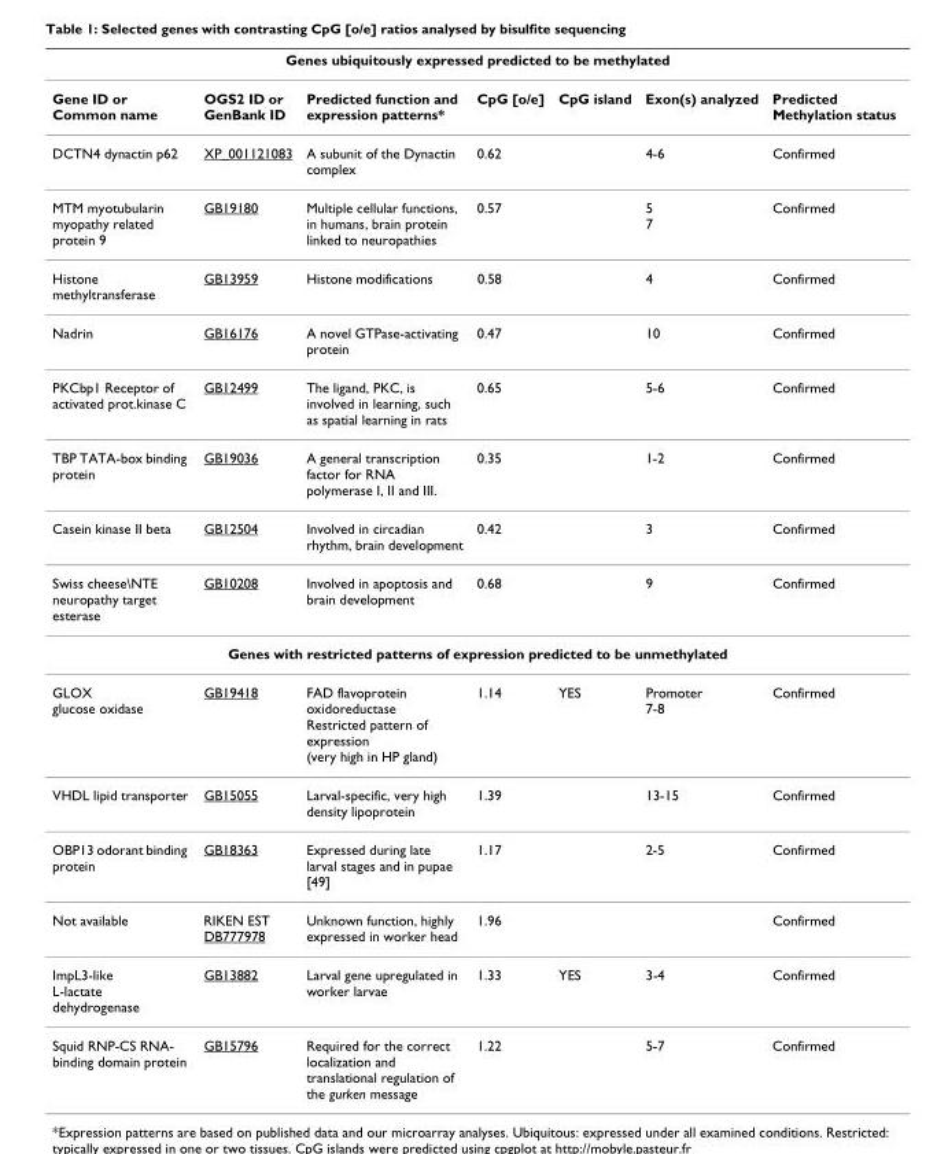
<table><thead><tr><td colspan="7">Genes ubiquitously expressed predicted to be methylated</td></tr><tr><td>Gene ID or Common name</td><td>OGS2 ID or GenBank ID</td><td>Predicted function and expression patterns*</td><td>CpG [o/e]</td><td>CpG island</td><td>Exon(s) analyzed</td><td>Predicted Methylation status</td></tr></thead><tbody><tr><td>DCTN4 dynactin p62</td><td>XP_001121083</td><td>A subunit of the Dynactin complex</td><td>0.62</td><td></td><td>4-6</td><td>Confirmed</td></tr><tr><td>MTM myotubularin myopathy related protein 9</td><td>GB19180</td><td>Multiple cellular functions, in humans, brain protein linked to neuropathies</td><td>0.57</td><td></td><td>5 7</td><td>Confirmed</td></tr><tr><td>Histone methyltransferase</td><td>GB13959</td><td>Histone modifications</td><td>0.58</td><td></td><td>4</td><td>Confirmed</td></tr><tr><td>Nadrin</td><td>GB16176</td><td>A novel GTPase-activating protein</td><td>0.47</td><td></td><td>10</td><td>Confirmed</td></tr><tr><td>PKCbp1 Receptor of activated prot.kinase C</td><td>GB12499</td><td>The ligand, PKC, is involved in learning, such as spatial learning in rats</td><td>0.65</td><td></td><td>5-6</td><td>Confirmed</td></tr><tr><td>TBP TATA-box binding protein</td><td>GB19036</td><td>A general transcription factor for RNA polymerase I, II and III.</td><td>0.35</td><td></td><td>1-2</td><td>Confirmed</td></tr><tr><td>Casein kinase II beta</td><td>GB12504</td><td>Involved in circadian rhythm, brain development</td><td>0.42</td><td></td><td>3</td><td>Confirmed</td></tr><tr><td>Swiss cheese\NTE neuropathy target esterase</td><td>GB10208</td><td>Involved in apoptosis and brain development</td><td>0.68</td><td></td><td>9</td><td>Confirmed</td></tr><tr><td colspan="7">Genes with restricted patterns of expression predicted to be unmethylated</td></tr><tr><td>GLOX glucose oxidase</td><td>GB19418</td><td>FAD flavoprotein oxidoreductase Restricted pattern of expression (very high in HP gland)</td><td>1.14</td><td>YES</td><td>Promoter 7-8</td><td>Confirmed</td></tr><tr><td>VHDL lipid transporter</td><td>GB15055</td><td>Larval-specific, very high density lipoprotein</td><td>1.39</td><td></td><td>13-15</td><td>Confirmed</td></tr><tr><td>OBP13 odorant binding protein</td><td>GB18363</td><td>Expressed during late larval stages and in pupae [49]</td><td>1.17</td><td></td><td>2-5</td><td>Confirmed</td></tr><tr><td>Not available</td><td>RIKEN EST DB777978</td><td>Unknown function, highly expressed in worker head</td><td>1.96</td><td></td><td></td><td>Confirmed</td></tr><tr><td>ImpL3-like L-lactate dehydrogenase</td><td>GB13882</td><td>Larval gene upregulated in worker larvae</td><td>1.33</td><td>YES</td><td>3-4</td><td>Confirmed</td></tr><tr><td>Squid RNP-CS RNA- binding domain protein</td><td>GB15796</td><td>Required for the correct localization and translational regulation of the gurken message</td><td>1.22</td><td></td><td>5-7</td><td>Confirmed</td></tr></tbody></table>